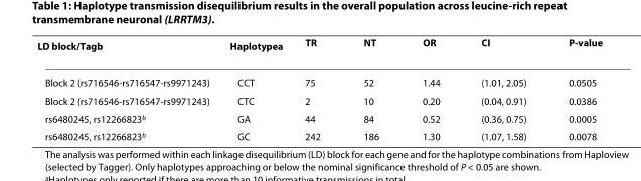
<table><thead><tr><td>LD block/Tag<sup>b</sup></td><td>Haplotype<sup>a</sup></td><td>TR</td><td>NT</td><td>OR</td><td>CI</td><td>P-value</td></tr></thead><tbody><tr><td>Block 2 (rs716546-rs716547-rs9971243)</td><td>CCT</td><td>75</td><td>52</td><td>1.44</td><td>(1.01, 2.05)</td><td>0.0505</td></tr><tr><td>Block 2 (rs716546-rs716547-rs9971243)</td><td>CTC</td><td>2</td><td>10</td><td>0.20</td><td>(0.04, 0.91)</td><td>0.0386</td></tr><tr><td>rs6480245, rs12266823<sup>b</sup></td><td>GA</td><td>44</td><td>84</td><td>0.52</td><td>(0.36, 0.75)</td><td>0.0005</td></tr><tr><td>rs6480245, rs12266823<sup>b</sup></td><td>GC</td><td>242</td><td>186</td><td>1.30</td><td>(1.07, 1.58)</td><td>0.0078</td></tr></tbody></table>